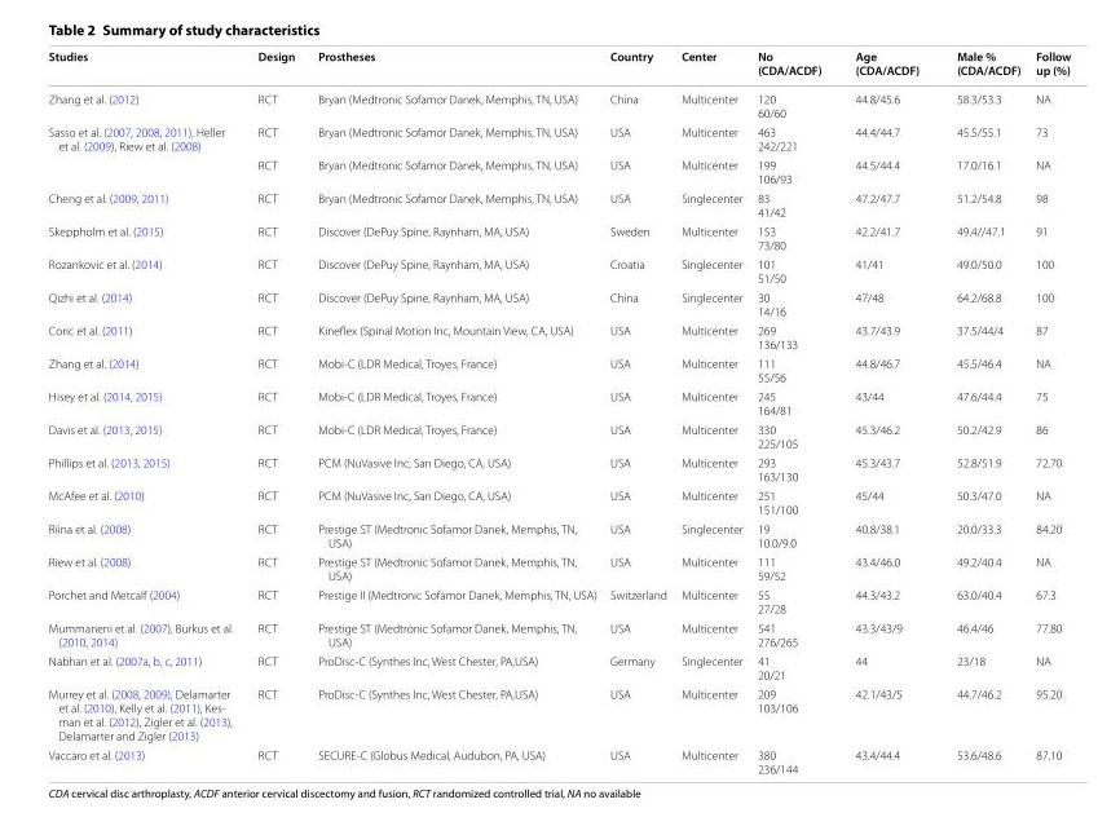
<table><thead><tr><td>Studies</td><td>Design</td><td>Prostheses</td><td>Country</td><td>Center</td><td>No (CDA/ACDF)</td><td>Age (CDA/ACDF)</td><td>Male % (CDA/ACDF)</td><td>Follow up (%)</td></tr></thead><tbody><tr><td>Zhang et al. (2012)</td><td>RCT</td><td>Bryan (Medtronic Sofamor Danek, Memphis, TN, USA)</td><td>China</td><td>Multicenter</td><td>120 60/60</td><td>44.8/45.6</td><td>58.3/53.3</td><td>NA</td></tr><tr><td rowspan="2">Sasso et al. (2007, 2008, 2011), Heller et al. (2009), Riew et al. (2008)</td><td>RCT</td><td>Bryan (Medtronic Sofamor Danek, Memphis, TN, USA)</td><td>USA</td><td>Multicenter</td><td>463 242/221</td><td>44.4/44.7</td><td>45.5/55.1</td><td>73</td></tr><tr><td>RCT</td><td>Bryan (Medtronic Sofamor Danek, Memphis, TN, USA)</td><td>USA</td><td>Multicenter</td><td>199 106/93</td><td>44.5/44.4</td><td>17.0/16.1</td><td>NA</td></tr><tr><td>Cheng et al. (2009, 2011)</td><td>RCT</td><td>Bryan (Medtronic Sofamor Danek, Memphis, TN, USA)</td><td>USA</td><td>Singlecenter</td><td>83 41/42</td><td>47.2/47.7</td><td>51.2/54.8</td><td>98</td></tr><tr><td>Skeppholm et al. (2015)</td><td>RCT</td><td>Discover (DePuy Spine, Raynham, MA, USA)</td><td>Sweden</td><td>Multicenter</td><td>153 73/80</td><td>42.2/41.7</td><td>49.4//47.1</td><td>91</td></tr><tr><td>Rozankovic et al. (2014)</td><td>RCT</td><td>Discover (DePuy Spine, Raynham, MA, USA)</td><td>Croatia</td><td>Singlecenter</td><td>101 51/50</td><td>41/41</td><td>49.0/50.0</td><td>100</td></tr><tr><td>Qizhi et al. (2014)</td><td>RCT</td><td>Discover (DePuy Spine, Raynham, MA, USA)</td><td>China</td><td>Singlecenter</td><td>30 14/16</td><td>47/48</td><td>64.2/68.8</td><td>100</td></tr><tr><td>Coric et al. (2011)</td><td>RCT</td><td>Kineflex (Spinal Motion Inc, Mountain View, CA, USA)</td><td>USA</td><td>Multicenter</td><td>269 136/133</td><td>43.7/43.9</td><td>37.5/44/4</td><td>87</td></tr><tr><td>Zhang et al. (2014)</td><td>RCT</td><td>Mobi-C (LDR Medical, Troyes, France)</td><td>USA</td><td>Multicenter</td><td>111 55/56</td><td>44.8/46.7</td><td>45.5/46.4</td><td>NA</td></tr><tr><td>Hisey et al. (2014, 2015)</td><td>RCT</td><td>Mobi-C (LDR Medical, Troyes, France)</td><td>USA</td><td>Multicenter</td><td>245 164/81</td><td>43/44</td><td>47.6/44.4</td><td>75</td></tr><tr><td>Davis et al. (2013, 2015)</td><td>RCT</td><td>Mobi-C (LDR Medical, Troyes, France)</td><td>USA</td><td>Multicenter</td><td>330 225/105</td><td>45.3/46.2</td><td>50.2/42.9</td><td>86</td></tr><tr><td>Phillips et al. (2013, 2015)</td><td>RCT</td><td>PCM (NuVasive Inc, San Diego, CA, USA)</td><td>USA</td><td>Multicenter</td><td>293 163/130</td><td>45.3/43.7</td><td>52.8/51.9</td><td>72.70</td></tr><tr><td>McAfee et al. (2010)</td><td>RCT</td><td>PCM (NuVasive Inc, San Diego, CA, USA)</td><td>USA</td><td>Multicenter</td><td>251 151/100</td><td>45/44</td><td>50.3/47.0</td><td>NA</td></tr><tr><td>Riina et al. (2008)</td><td>RCT</td><td>Prestige ST (Medtronic Sofamor Danek, Memphis, TN, USA)</td><td>USA</td><td>Singlecenter</td><td>19 10.0/9.0</td><td>40.8/38.1</td><td>20.0/33.3</td><td>84.20</td></tr><tr><td>Riew et al. (2008)</td><td>RCT</td><td>Prestige ST (Medtronic Sofamor Danek, Memphis, TN, USA)</td><td>USA</td><td>Multicenter</td><td>111 59/52</td><td>43.4/46.0</td><td>49.2/40.4</td><td>NA</td></tr><tr><td>Porchet and Metcalf (2004)</td><td>RCT</td><td>Prestige II (Medtronic Sofamor Danek, Memphis, TN, USA)</td><td>Switzerland</td><td>Multicenter</td><td>55 27/28</td><td>44.3/43.2</td><td>63.0/40.4</td><td>67.3</td></tr><tr><td>Mummaneni et al. (2007), Burkus et al. (2010, 2014)</td><td>RCT</td><td>Prestige ST (Medtronic Sofamor Danek, Memphis, TN, USA)</td><td>USA</td><td>Multicenter</td><td>541 276/265</td><td>43.3/43/9</td><td>46.4/46</td><td>77.80</td></tr><tr><td>Nabhan et al. (2007a, b, c, 2011)</td><td>RCT</td><td>ProDisc-C (Synthes Inc, West Chester, PA,USA)</td><td>Germany</td><td>Singlecenter</td><td>41 20/21</td><td>44</td><td>23/18</td><td>NA</td></tr><tr><td>Murrey et al. (2008, 2009), Delamarter et al. (2010), Kelly et al. (2011), Kes- man et al. (2012), Zigler et al. (2013), Delamarter and Zigler (2013)</td><td>RCT</td><td>ProDisc-C (Synthes Inc, West Chester, PA,USA)</td><td>USA</td><td>Multicenter</td><td>209 103/106</td><td>42.1/43/5</td><td>44.7/46.2</td><td>95.20</td></tr><tr><td>Vaccaro et al. (2013)</td><td>RCT</td><td>SECURE-C (Globus Medical, Audubon, PA, USA)</td><td>USA</td><td>Multicenter</td><td>380 236/144</td><td>43.4/44.4</td><td>53.6/48.6</td><td>87.10</td></tr></tbody></table>